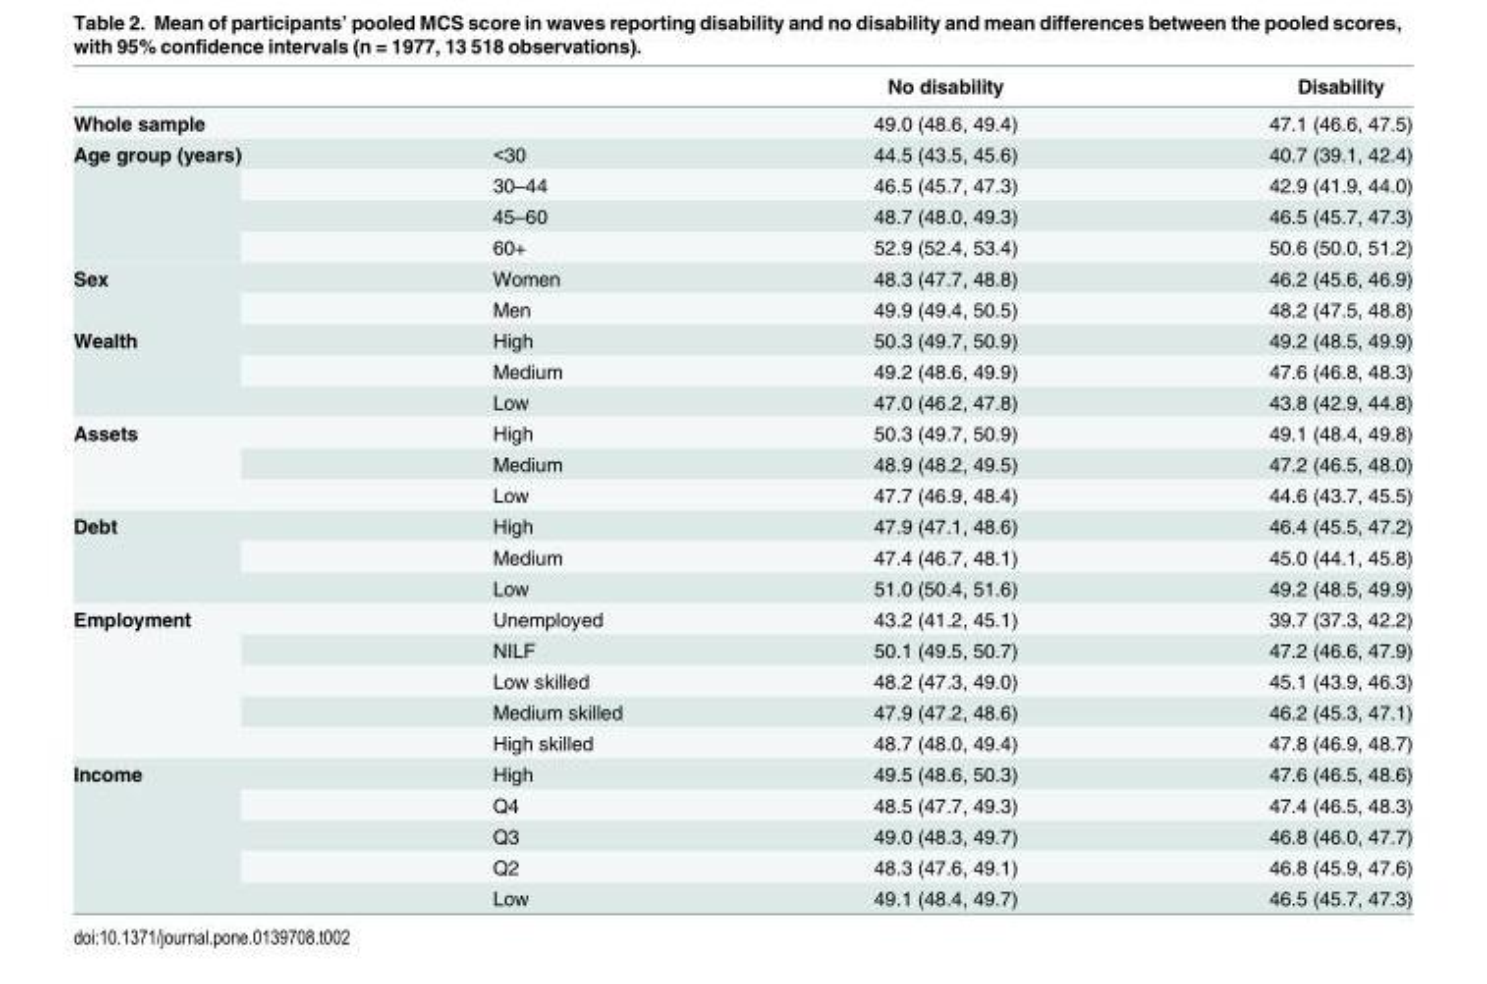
<table><thead><tr><td></td><td></td><td>No disability</td><td>Disability</td></tr></thead><tbody><tr><td>Whole sample</td><td></td><td>49.0 (48.6, 49.4)</td><td>47.1 (46.6, 47.5)</td></tr><tr><td rowspan="4">Age group (years)</td><td>&lt;30</td><td>44.5 (43.5, 45.6)</td><td>40.7 (39.1, 42.4)</td></tr><tr><td>30–44</td><td>46.5 (45.7, 47.3)</td><td>42.9 (41.9, 44.0)</td></tr><tr><td>45–60</td><td>48.7 (48.0, 49.3)</td><td>46.5 (45.7, 47.3)</td></tr><tr><td>60+</td><td>52.9 (52.4, 53.4)</td><td>50.6 (50.0, 51.2)</td></tr><tr><td rowspan="2">Sex</td><td>Women</td><td>48.3 (47.7, 48.8)</td><td>46.2 (45.6, 46.9)</td></tr><tr><td>Men</td><td>49.9 (49.4, 50.5)</td><td>48.2 (47.5, 48.8)</td></tr><tr><td rowspan="3">Wealth</td><td>High</td><td>50.3 (49.7, 50.9)</td><td>49.2 (48.5, 49.9)</td></tr><tr><td>Medium</td><td>49.2 (48.6, 49.9)</td><td>47.6 (46.8, 48.3)</td></tr><tr><td>Low</td><td>47.0 (46.2, 47.8)</td><td>43.8 (42.9, 44.8)</td></tr><tr><td rowspan="3">Assets</td><td>High</td><td>50.3 (49.7, 50.9)</td><td>49.1 (48.4, 49.8)</td></tr><tr><td>Medium</td><td>48.9 (48.2, 49.5)</td><td>47.2 (46.5, 48.0)</td></tr><tr><td>Low</td><td>47.7 (46.9, 48.4)</td><td>44.6 (43.7, 45.5)</td></tr><tr><td rowspan="3">Debt</td><td>High</td><td>47.9 (47.1, 48.6)</td><td>46.4 (45.5, 47.2)</td></tr><tr><td>Medium</td><td>47.4 (46.7, 48.1)</td><td>45.0 (44.1, 45.8)</td></tr><tr><td>Low</td><td>51.0 (50.4, 51.6)</td><td>49.2 (48.5, 49.9)</td></tr><tr><td rowspan="5">Employment</td><td>Unemployed</td><td>43.2 (41.2, 45.1)</td><td>39.7 (37.3, 42.2)</td></tr><tr><td>NILF</td><td>50.1 (49.5, 50.7)</td><td>47.2 (46.6, 47.9)</td></tr><tr><td>Low skilled</td><td>48.2 (47.3, 49.0)</td><td>45.1 (43.9, 46.3)</td></tr><tr><td>Medium skilled</td><td>47.9 (47.2, 48.6)</td><td>46.2 (45.3, 47.1)</td></tr><tr><td>High skilled</td><td>48.7 (48.0, 49.4)</td><td>47.8 (46.9, 48.7)</td></tr><tr><td rowspan="5">Income</td><td>High</td><td>49.5 (48.6, 50.3)</td><td>47.6 (46.5, 48.6)</td></tr><tr><td>Q4</td><td>48.5 (47.7, 49.3)</td><td>47.4 (46.5, 48.3)</td></tr><tr><td>Q3</td><td>49.0 (48.3, 49.7)</td><td>46.8 (46.0, 47.7)</td></tr><tr><td>Q2</td><td>48.3 (47.6, 49.1)</td><td>46.8 (45.9, 47.6)</td></tr><tr><td>Low</td><td>49.1 (48.4, 49.7)</td><td>46.5 (45.7, 47.3)</td></tr></tbody></table>